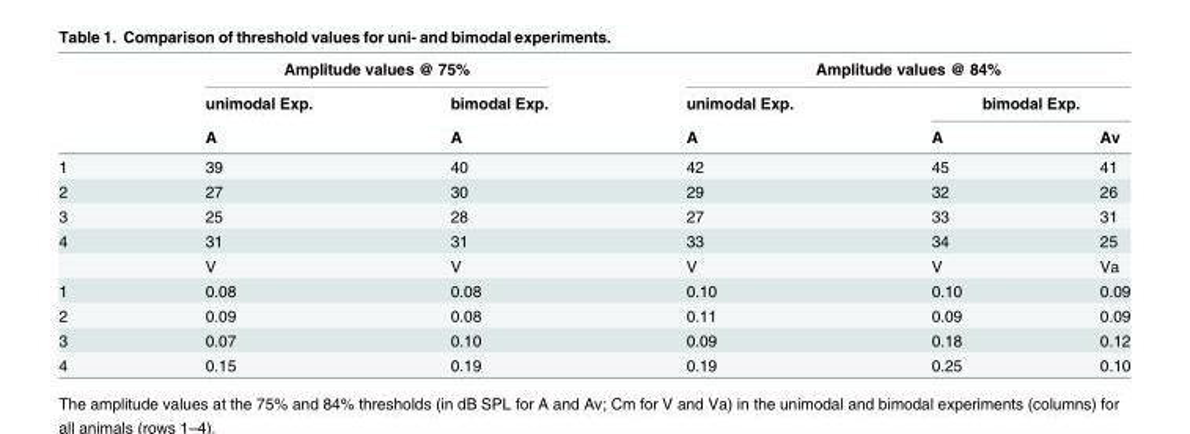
<table><thead><tr><td rowspan="3"></td><td colspan="2">Amplitude values @ 75%</td><td colspan="3">Amplitude values @ 84%</td></tr><tr><td rowspan="2">unimodal Exp. A</td><td rowspan="2">bimodal Exp. A</td><td rowspan="2">unimodal Exp. A</td><td colspan="2">bimodal Exp.</td></tr><tr><td>A</td><td>Av</td></tr></thead><tbody><tr><td>1</td><td>39</td><td>40</td><td>42</td><td>45</td><td>41</td></tr><tr><td>2</td><td>27</td><td>30</td><td>29</td><td>32</td><td>26</td></tr><tr><td>3</td><td>25</td><td>28</td><td>27</td><td>33</td><td>31</td></tr><tr><td rowspan="2">4</td><td>31</td><td>31</td><td>33</td><td>34</td><td>25</td></tr><tr><td>V</td><td>V</td><td>V</td><td>V</td><td>Va</td></tr><tr><td>1</td><td>0.08</td><td>0.08</td><td>0.10</td><td>0.10</td><td>0.09</td></tr><tr><td>2</td><td>0.09</td><td>0.08</td><td>0.11</td><td>0.09</td><td>0.09</td></tr><tr><td>3</td><td>0.07</td><td>0.10</td><td>0.09</td><td>0.18</td><td>0.12</td></tr><tr><td>4</td><td>0.15</td><td>0.19</td><td>0.19</td><td>0.25</td><td>0.10</td></tr></tbody></table>